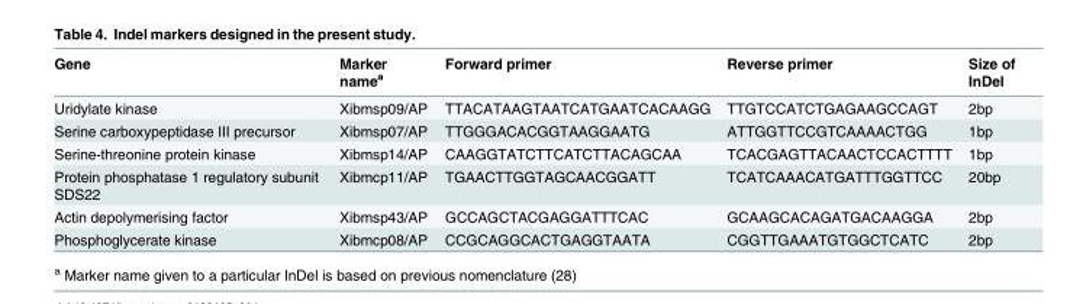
<table><thead><tr><td>Gene</td><td>Marker name<sup>a</sup></td><td>Forward primer</td><td>Reverse primer</td><td>Size of InDel</td></tr></thead><tbody><tr><td>Uridylate kinase</td><td>Xibmsp09/AP</td><td>TTACATAAGTAATCATGAATCACAAGG</td><td>TTGTCCATCTGAGAAGCCAGT</td><td>2bp</td></tr><tr><td>Serine carboxypeptidase III precursor</td><td>Xibmsp07/AP</td><td>TTGGGACACGGTAAGGAATG</td><td>ATTGGTTCCGTCAAAACTGG</td><td>1bp</td></tr><tr><td>Serine-threonine protein kinase</td><td>Xibmsp14/AP</td><td>CAAGGTATCTTCATCTTACAGCAA</td><td>TCACGAGTTACAACTCCACTTTT</td><td>1bp</td></tr><tr><td>Protein phosphatase 1 regulatory subunit SDS22</td><td>Xibmcp11/AP</td><td>TGAACTTGGTAGCAACGGATT</td><td>TCATCAAACATGATTTGGTTCC</td><td>20bp</td></tr><tr><td>Actin depolymerising factor</td><td>Xibmsp43/AP</td><td>GCCAGCTACGAGGATTTCAC</td><td>GCAAGCACAGATGACAAGGA</td><td>2bp</td></tr><tr><td>Phosphoglycerate kinase</td><td>Xibmcp08/AP</td><td>CCGCAGGCACTGAGGTAATA</td><td>CGGTTGAAATGTGGCTCATC</td><td>2bp</td></tr></tbody></table>